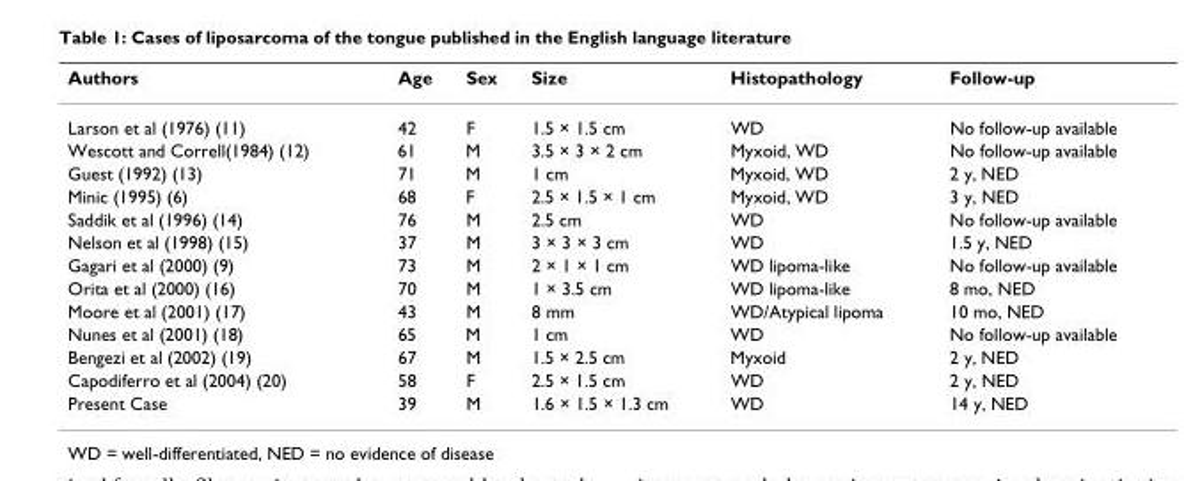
<table><thead><tr><td>Authors</td><td>Age</td><td>Sex</td><td>Size</td><td>Histopathology</td><td>Follow-up</td></tr></thead><tbody><tr><td>Larson et al (1976) (11)</td><td>42</td><td>F</td><td>1.5 × 1.5 cm</td><td>WD</td><td>No follow-up available</td></tr><tr><td>Wescott and Correll(1984) (12)</td><td>61</td><td>M</td><td>3.5 × 3 × 2 cm</td><td>Myxoid, WD</td><td>No follow-up available</td></tr><tr><td>Guest (1992) (13)</td><td>71</td><td>M</td><td>1 cm</td><td>Myxoid, WD</td><td>2 y, NED</td></tr><tr><td>Minic (1995) (6)</td><td>68</td><td>F</td><td>2.5 × 1.5 × 1 cm</td><td>Myxoid, WD</td><td>3 y, NED</td></tr><tr><td>Saddik et al (1996) (14)</td><td>76</td><td>M</td><td>2.5 cm</td><td>WD</td><td>No follow-up available</td></tr><tr><td>Nelson et al (1998) (15)</td><td>37</td><td>M</td><td>3 × 3 × 3 cm</td><td>WD</td><td>1.5 y, NED</td></tr><tr><td>Gagari et al (2000) (9)</td><td>73</td><td>M</td><td>2 × 1 × 1 cm</td><td>WD lipoma-like</td><td>No follow-up available</td></tr><tr><td>Orita et al (2000) (16)</td><td>70</td><td>M</td><td>1 × 3.5 cm</td><td>WD lipoma-like</td><td>8 mo, NED</td></tr><tr><td>Moore et al (2001) (17)</td><td>43</td><td>M</td><td>8 mm</td><td>WD/Atypical lipoma</td><td>10 mo, NED</td></tr><tr><td>Nunes et al (2001) (18)</td><td>65</td><td>M</td><td>1 cm</td><td>WD</td><td>No follow-up available</td></tr><tr><td>Bengezi et al (2002) (19)</td><td>67</td><td>M</td><td>1.5 × 2.5 cm</td><td>Myxoid</td><td>2 y, NED</td></tr><tr><td>Capodiferro et al (2004) (20)</td><td>58</td><td>F</td><td>2.5 × 1.5 cm</td><td>WD</td><td>2 y, NED</td></tr><tr><td>Present Case</td><td>39</td><td>M</td><td>1.6 × 1.5 × 1.3 cm</td><td>WD</td><td>14 y, NED</td></tr></tbody></table>